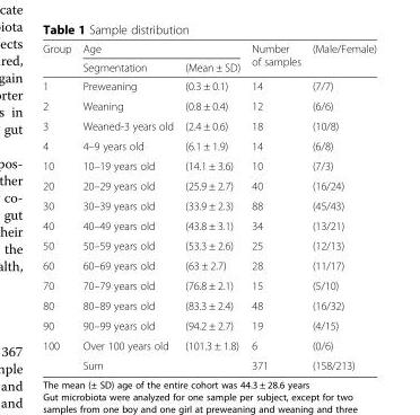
<table><thead><tr><td rowspan="2">Group</td><td colspan="2">Age</td><td rowspan="2">Number of samples</td><td rowspan="2">(Male/Female)</td></tr><tr><td>Segmentation</td><td>(Mean ± SD)</td></tr></thead><tbody><tr><td>1</td><td>Preweaning</td><td>(0.3 ± 0.1)</td><td>14</td><td>(7/7)</td></tr><tr><td>2</td><td>Weaning</td><td>(0.8 ± 0.4)</td><td>12</td><td>(6/6)</td></tr><tr><td>3</td><td>Weaned-3 years old</td><td>(2.4 ± 0.6)</td><td>18</td><td>(10/8)</td></tr><tr><td>4</td><td>4–9 years old</td><td>(6.1 ± 1.9)</td><td>14</td><td>(6/8)</td></tr><tr><td>10</td><td>10–19 years old</td><td>(14.1 ± 3.6)</td><td>10</td><td>(7/3)</td></tr><tr><td>20</td><td>20–29 years old</td><td>(25.9 ± 2.7)</td><td>40</td><td>(16/24)</td></tr><tr><td>30</td><td>30–39 years old</td><td>(33.9 ± 2.3)</td><td>88</td><td>(45/43)</td></tr><tr><td>40</td><td>40–49 years old</td><td>(43.8 ± 3.1)</td><td>34</td><td>(13/21)</td></tr><tr><td>50</td><td>50–59 years old</td><td>(53.3 ± 2.6)</td><td>25</td><td>(12/13)</td></tr><tr><td>60</td><td>60–69 years old</td><td>(63 ± 2.7)</td><td>28</td><td>(11/17)</td></tr><tr><td>70</td><td>70–79 years old</td><td>(76.8 ± 2.1)</td><td>15</td><td>(5/10)</td></tr><tr><td>80</td><td>80–89 years old</td><td>(83.3 ± 2.4)</td><td>48</td><td>(16/32)</td></tr><tr><td>90</td><td>90–99 years old</td><td>(94.2 ± 2.7)</td><td>19</td><td>(4/15)</td></tr><tr><td rowspan="2">100</td><td>Over 100 years old</td><td>(101.3 ± 1.8)</td><td>6</td><td>(0/6)</td></tr><tr><td>Sum</td><td></td><td>371</td><td>(158/213)</td></tr></tbody></table>